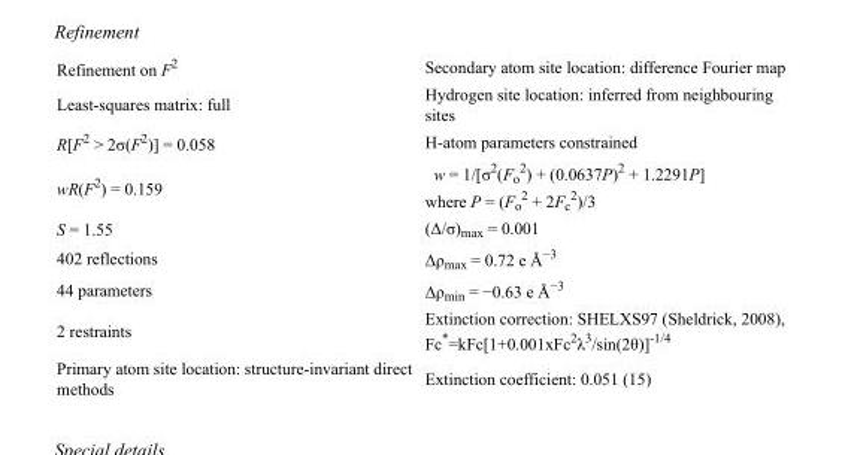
<table><tbody><tr><td>Refinement on F2</td><td>Secondary atom site location: difference Fourier map</td></tr><tr><td>Least-squares matrix: full</td><td>Hydrogen site location: inferred from neighbouring sites</td></tr><tr><td>R[F2 &gt; 2σ(F2)] = 0.058</td><td>H-atom parameters constrained</td></tr><tr><td>wR(F2) = 0.159</td><td>w = 1/[σ2(Fo 2) + (0.0637P)2 + 1.2291P] where P = (Fo 2 + 2Fc 2)/3</td></tr><tr><td>S = 1.55</td><td>(Δ/σ)max = 0.001</td></tr><tr><td>402 reflections</td><td>Δρmax = 0.72 e Å−3</td></tr><tr><td>44 parameters</td><td>Δρmin = −0.63 e Å−3</td></tr><tr><td>2 restraints</td><td>Extinction correction: SHELXS97 (Sheldrick, 2008), Fc*=kFc[1+0.001xFc2λ3/sin(2θ)]-1/4</td></tr><tr><td>Primary atom site location: structure-invariant direct methods</td><td>Extinction coefficient: 0.051 (15)</td></tr></tbody></table>